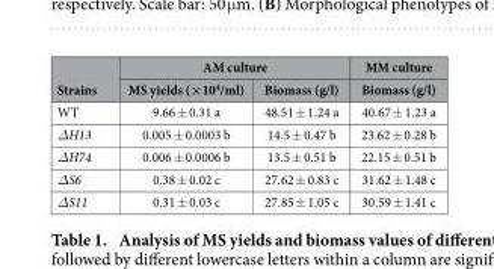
<table><thead><tr><td rowspan="2">Strains</td><td colspan="2">AM culture</td><td rowspan="2">MM culture Biomass (g/l)</td></tr><tr><td>MS yields (×10<sup>4</sup>/ml)</td><td>Biomass (g/l)</td></tr></thead><tbody><tr><td>WT</td><td>9.66 ± 0.31 a</td><td>48.51 ± 1.24 a</td><td>40.67 ± 1.23 a</td></tr><tr><td>ΔH13</td><td>0.005 ± 0.0003 b</td><td>14.5 ± 0.47 b</td><td>23.62 ± 0.28 b</td></tr><tr><td>ΔH74</td><td>0.006 ± 0.0006 b</td><td>13.5 ± 0.51 b</td><td>22.15 ± 0.51 b</td></tr><tr><td>ΔS6</td><td>0.38 ± 0.02 c</td><td>27.62 ± 0.83 c</td><td>31.62 ± 1.48 c</td></tr><tr><td>ΔS11</td><td>0.31 ± 0.03 c</td><td>27.85 ± 1.05 c</td><td>30.59 ± 1.41 c</td></tr></tbody></table>